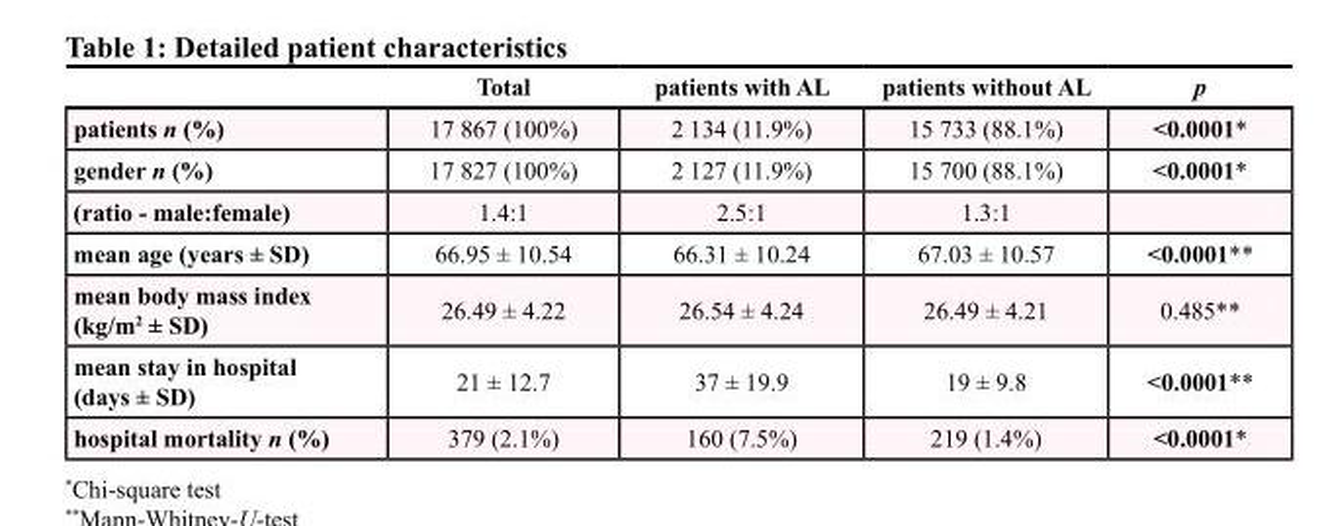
<table><thead><tr><td></td><td>Total</td><td>patients with AL</td><td>patients without AL</td><td>p</td></tr></thead><tbody><tr><td>patients n (%)</td><td>17 867 (100%)</td><td>2 134 (11.9%)</td><td>15 733 (88.1%)</td><td>&lt;0.0001*</td></tr><tr><td>gender n (%)</td><td>17 827 (100%)</td><td>2 127 (11.9%)</td><td>15 700 (88.1%)</td><td>&lt;0.0001*</td></tr><tr><td>(ratio - male:female)</td><td>1.4:1</td><td>2.5:1</td><td>1.3:1</td><td></td></tr><tr><td>mean age (years ± SD)</td><td>66.95 ± 10.54</td><td>66.31 ± 10.24</td><td>67.03 ± 10.57</td><td>&lt;0.0001**</td></tr><tr><td>mean body mass index (kg/m<sup>2</sup> ± SD)</td><td>26.49 ± 4.22</td><td>26.54 ± 4.24</td><td>26.49 ± 4.21</td><td>0.485**</td></tr><tr><td>mean stay in hospital (days ± SD)</td><td>21 ± 12.7</td><td>37 ± 19.9</td><td>19 ± 9.8</td><td>&lt;0.0001**</td></tr><tr><td>hospital mortality n (%)</td><td>379 (2.1%)</td><td>160 (7.5%)</td><td>219 (1.4%)</td><td>&lt;0.0001*</td></tr></tbody></table>